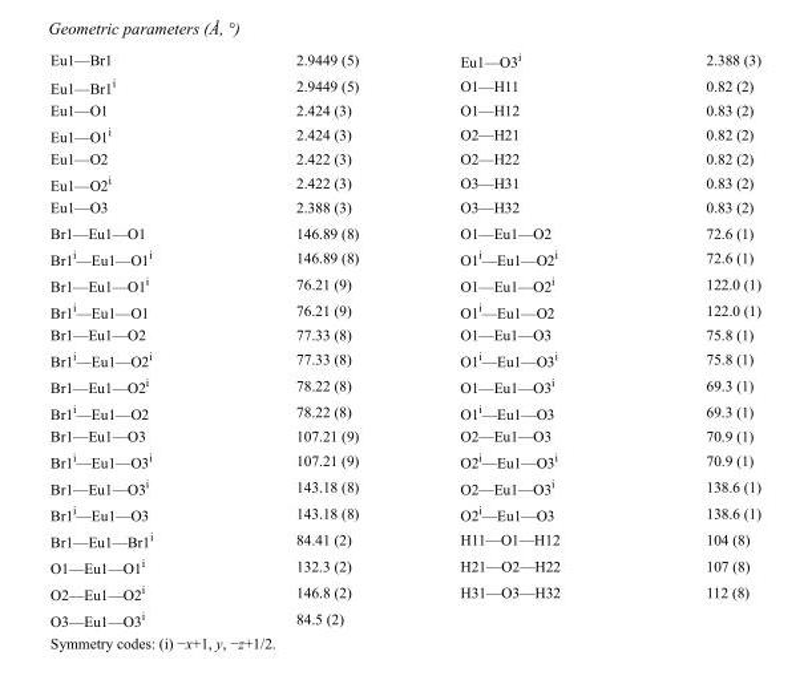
<table><tbody><tr><td>Eu1—Br1</td><td>2.9449 (5)</td><td>Eu1—O3<sup>i</sup></td><td>2.388 (3)</td></tr><tr><td>Eu1—Br1<sup>i</sup></td><td>2.9449 (5)</td><td>O1—H11</td><td>0.82 (2)</td></tr><tr><td>Eu1—O1</td><td>2.424 (3)</td><td>O1—H12</td><td>0.83 (2)</td></tr><tr><td>Eu1—O1<sup>i</sup></td><td>2.424 (3)</td><td>O2—H21</td><td>0.82 (2)</td></tr><tr><td>Eu1—O2</td><td>2.422 (3)</td><td>O2—H22</td><td>0.82 (2)</td></tr><tr><td>Eu1—O2<sup>i</sup></td><td>2.422 (3)</td><td>O3—H31</td><td>0.83 (2)</td></tr><tr><td>Eu1—O3</td><td>2.388 (3)</td><td>O3—H32</td><td>0.83 (2)</td></tr><tr><td>Br1—Eu1—O1</td><td>146.89 (8)</td><td>O1—Eu1—O2</td><td>72.6 (1)</td></tr><tr><td>Br1<sup>i</sup>—Eu1—O1<sup>i</sup></td><td>146.89 (8)</td><td>O1<sup>i</sup>—Eu1—O2<sup>i</sup></td><td>72.6 (1)</td></tr><tr><td>Br1—Eu1—O1<sup>i</sup></td><td>76.21 (9)</td><td>O1—Eu1—O2<sup>i</sup></td><td>122.0 (1)</td></tr><tr><td>Br1<sup>i</sup>—Eu1—O1</td><td>76.21 (9)</td><td>O1<sup>i</sup>—Eu1—O2</td><td>122.0 (1)</td></tr><tr><td>Br1—Eu1—O2</td><td>77.33 (8)</td><td>O1—Eu1—O3</td><td>75.8 (1)</td></tr><tr><td>Br1<sup>i</sup>—Eu1—O2<sup>i</sup></td><td>77.33 (8)</td><td>O1<sup>i</sup>—Eu1—O3<sup>i</sup></td><td>75.8 (1)</td></tr><tr><td>Br1—Eu1—O2<sup>i</sup></td><td>78.22 (8)</td><td>O1—Eu1—O3<sup>i</sup></td><td>69.3 (1)</td></tr><tr><td>Br1<sup>i</sup>—Eu1—O2</td><td>78.22 (8)</td><td>O1<sup>i</sup>—Eu1—O3</td><td>69.3 (1)</td></tr><tr><td>Br1—Eu1—O3</td><td>107.21 (9)</td><td>O2—Eu1—O3</td><td>70.9 (1)</td></tr><tr><td>Br1<sup>i</sup>—Eu1—O3<sup>i</sup></td><td>107.21 (9)</td><td>O2<sup>i</sup>—Eu1—O3<sup>i</sup></td><td>70.9 (1)</td></tr><tr><td>Br1—Eu1—O3<sup>i</sup></td><td>143.18 (8)</td><td>O2—Eu1—O3<sup>i</sup></td><td>138.6 (1)</td></tr><tr><td>Br1<sup>i</sup>—Eu1—O3</td><td>143.18 (8)</td><td>O2<sup>i</sup>—Eu1—O3</td><td>138.6 (1)</td></tr><tr><td>Br1—Eu1—Br1<sup>i</sup></td><td>84.41 (2)</td><td>H11—O1—H12</td><td>104 (8)</td></tr><tr><td>O1—Eu1—O1<sup>i</sup></td><td>132.3 (2)</td><td>H21—O2—H22</td><td>107 (8)</td></tr><tr><td>O2—Eu1—O2<sup>i</sup></td><td>146.8 (2)</td><td>H31—O3—H32</td><td>112 (8)</td></tr><tr><td>O3—Eu1—O3<sup>i</sup></td><td>84.5 (2)</td><td></td><td></td></tr></tbody></table>